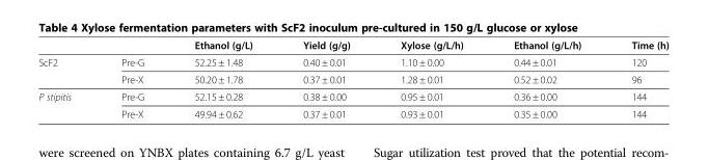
<table><thead><tr><td></td><td></td><td>Ethanol (g/L)</td><td>Yield (g/g)</td><td>Xylose (g/L/h)</td><td>Ethanol (g/L/h)</td><td>Time (h)</td></tr></thead><tbody><tr><td rowspan="2">ScF2</td><td>Pre-G</td><td>52.25 ± 1.48</td><td>0.40 ± 0.01</td><td>1.10 ± 0.00</td><td>0.44 ± 0.01</td><td>120</td></tr><tr><td>Pre-X</td><td>50.20 ± 1.78</td><td>0.37 ± 0.01</td><td>1.28 ± 0.01</td><td>0.52 ± 0.02</td><td>96</td></tr><tr><td rowspan="2">P stipitis</td><td>Pre-G</td><td>52.15 ± 0.28</td><td>0.38 ± 0.00</td><td>0.95 ± 0.01</td><td>0.36 ± 0.00</td><td>144</td></tr><tr><td>Pre-X</td><td>49.94 ± 0.62</td><td>0.37 ± 0.01</td><td>0.93 ± 0.01</td><td>0.35 ± 0.00</td><td>144</td></tr></tbody></table>